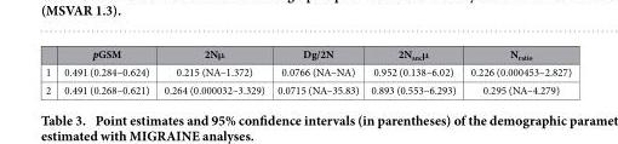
<table><thead><tr><td></td><td>pGSM</td><td>2Nμ</td><td>Dg/2N</td><td>2N<sub>anc</sub>μ</td><td>N<sub>ratio</sub></td></tr></thead><tbody><tr><td>1</td><td>0.491 (0.284–0.624)</td><td>0.215 (NA–1.372)</td><td>0.0766 (NA–NA)</td><td>0.952 (0.138–6.02)</td><td>0.226 (0.000453–2.827)</td></tr><tr><td>2</td><td>0.491 (0.268–0.621)</td><td>0.264 (0.000032–3.329)</td><td>0.0715 (NA–35.83)</td><td>0.893 (0.553–6.293)</td><td>0.295 (NA–4.279)</td></tr></tbody></table>